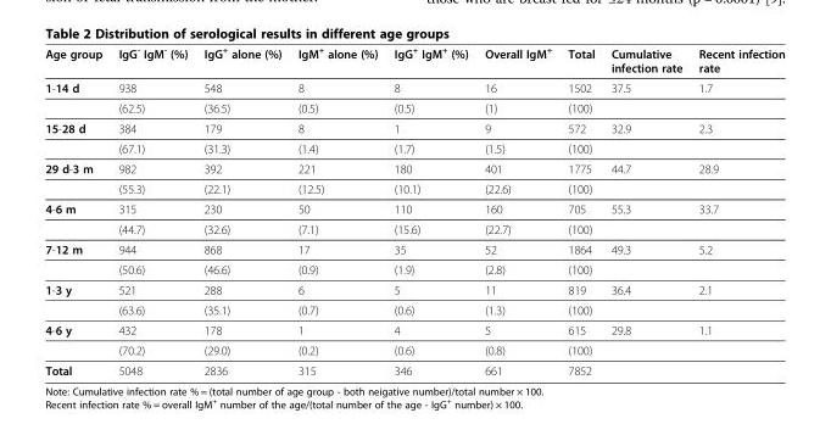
<table><thead><tr><td>Age group</td><td>IgG<sup>-</sup> IgM<sup>-</sup> (%)</td><td>IgG<sup>+</sup> alone (%)</td><td>IgM<sup>+</sup> alone (%)</td><td>IgG<sup>+</sup> IgM<sup>+</sup> (%)</td><td>Overall IgM<sup>+</sup></td><td>Total</td><td>Cumulative infection rate</td><td>Recent infection rate</td></tr></thead><tbody><tr><td rowspan="2">1-14 d</td><td>938</td><td>548</td><td>8</td><td>8</td><td>16</td><td>1502</td><td>37.5</td><td>1.7</td></tr><tr><td>(62.5)</td><td>(36.5)</td><td>(0.5)</td><td>(0.5)</td><td>(1)</td><td>(100)</td><td></td><td></td></tr><tr><td rowspan="2">15-28 d</td><td>384</td><td>179</td><td>8</td><td>1</td><td>9</td><td>572</td><td>32.9</td><td>2.3</td></tr><tr><td>(67.1)</td><td>(31.3)</td><td>(1.4)</td><td>(1.7)</td><td>(1.5)</td><td>(100)</td><td></td><td></td></tr><tr><td rowspan="2">29 d-3 m</td><td>982</td><td>392</td><td>221</td><td>180</td><td>401</td><td>1775</td><td>44.7</td><td>28.9</td></tr><tr><td>(55.3)</td><td>(22.1)</td><td>(12.5)</td><td>(10.1)</td><td>(22.6)</td><td>(100)</td><td></td><td></td></tr><tr><td rowspan="2">4-6 m</td><td>315</td><td>230</td><td>50</td><td>110</td><td>160</td><td>705</td><td>55.3</td><td>33.7</td></tr><tr><td>(44.7)</td><td>(32.6)</td><td>(7.1)</td><td>(15.6)</td><td>(22.7)</td><td>(100)</td><td></td><td></td></tr><tr><td rowspan="2">7-12 m</td><td>944</td><td>868</td><td>17</td><td>35</td><td>52</td><td>1864</td><td>49.3</td><td>5.2</td></tr><tr><td>(50.6)</td><td>(46.6)</td><td>(0.9)</td><td>(1.9)</td><td>(2.8)</td><td>(100)</td><td></td><td></td></tr><tr><td rowspan="2">1-3 y</td><td>521</td><td>288</td><td>6</td><td>5</td><td>11</td><td>819</td><td>36.4</td><td>2.1</td></tr><tr><td>(63.6)</td><td>(35.1)</td><td>(0.7)</td><td>(0.6)</td><td>(1.3)</td><td>(100)</td><td></td><td></td></tr><tr><td rowspan="2">4-6 y</td><td>432</td><td>178</td><td>1</td><td>4</td><td>5</td><td>615</td><td>29.8</td><td>1.1</td></tr><tr><td>(70.2)</td><td>(29.0)</td><td>(0.2)</td><td>(0.6)</td><td>(0.8)</td><td>(100)</td><td></td><td></td></tr><tr><td>Total</td><td>5048</td><td>2836</td><td>315</td><td>346</td><td>661</td><td>7852</td><td></td><td></td></tr></tbody></table>